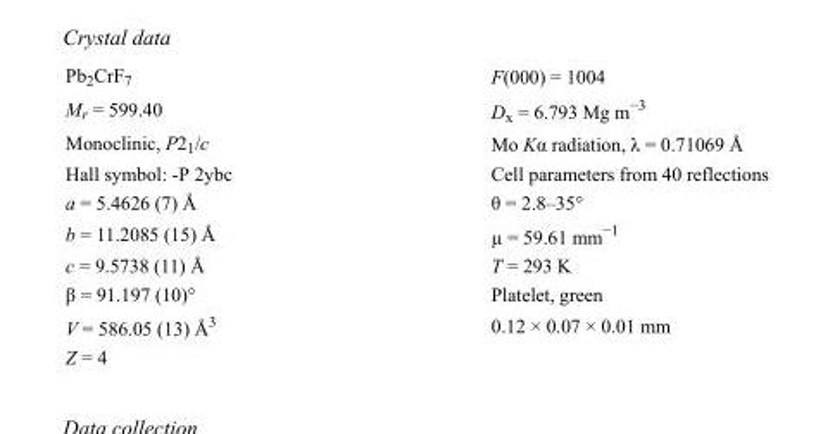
<table><tbody><tr><td>Pb<sub>2</sub>CrF<sub>7</sub></td><td>F(000) = 1004</td></tr><tr><td>M<sub>r</sub> = 599.40</td><td>D<sub>x</sub> = 6.793 Mg m<sup>−3</sup></td></tr><tr><td>Monoclinic, P2<sub>1</sub>/c</td><td>Mo Kα radiation, λ = 0.71069 Å</td></tr><tr><td>Hall symbol: -P 2ybc</td><td>Cell parameters from 40 reflections</td></tr><tr><td>a = 5.4626 (7) Å</td><td>θ = 2.8–35°</td></tr><tr><td>b = 11.2085 (15) Å</td><td>µ = 59.61 mm<sup>−1</sup></td></tr><tr><td>c = 9.5738 (11) Å</td><td>T = 293 K</td></tr><tr><td>β = 91.197 (10)°</td><td>Platelet, green</td></tr><tr><td>V = 586.05 (13) Å<sup>3</sup></td><td>0.12 × 0.07 × 0.01 mm</td></tr><tr><td>Z = 4</td><td></td></tr></tbody></table>